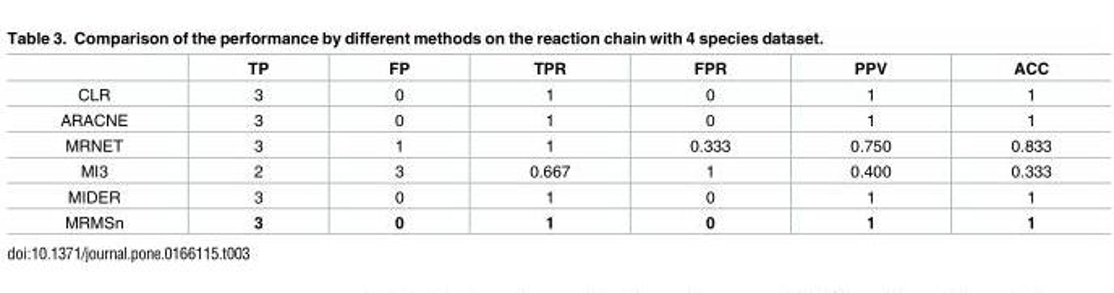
<table><thead><tr><td></td><td>TP</td><td>FP</td><td>TPR</td><td>FPR</td><td>PPV</td><td>ACC</td></tr></thead><tbody><tr><td>CLR</td><td>3</td><td>0</td><td>1</td><td>0</td><td>1</td><td>1</td></tr><tr><td>ARACNE</td><td>3</td><td>0</td><td>1</td><td>0</td><td>1</td><td>1</td></tr><tr><td>MRNET</td><td>3</td><td>1</td><td>1</td><td>0.333</td><td>0.750</td><td>0.833</td></tr><tr><td>MI3</td><td>2</td><td>3</td><td>0.667</td><td>1</td><td>0.400</td><td>0.333</td></tr><tr><td>MIDER</td><td>3</td><td>0</td><td>1</td><td>0</td><td>1</td><td>1</td></tr><tr><td>MRMSn</td><td>3</td><td>0</td><td>1</td><td>0</td><td>1</td><td>1</td></tr></tbody></table>